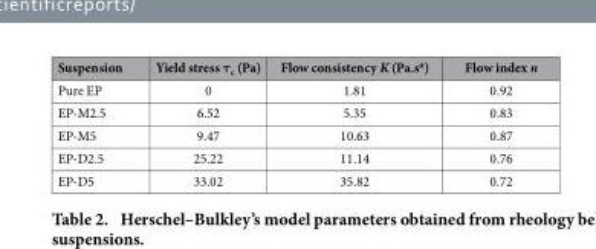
<table><thead><tr><td>Suspension</td><td>Yield stress τ<sub>c</sub> (Pa)</td><td>Flow consistency K (Pa.s<sup>n</sup>)</td><td>Flow index n</td></tr></thead><tbody><tr><td>Pure EP</td><td>0</td><td>1.81</td><td>0.92</td></tr><tr><td>EP-M2.5</td><td>6.52</td><td>5.35</td><td>0.83</td></tr><tr><td>EP-M5</td><td>9.47</td><td>10.63</td><td>0.87</td></tr><tr><td>EP-D2.5</td><td>25.22</td><td>11.14</td><td>0.76</td></tr><tr><td>EP-D5</td><td>33.02</td><td>35.82</td><td>0.72</td></tr></tbody></table>